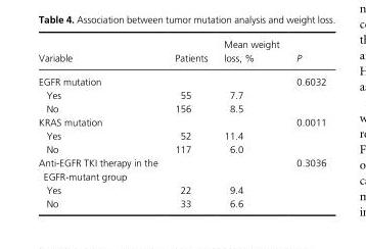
<table><thead><tr><td>Variable</td><td>Patients</td><td>Mean weight loss, %</td><td>P</td></tr></thead><tbody><tr><td>EGFR mutation</td><td></td><td></td><td>0.6032</td></tr><tr><td>Yes</td><td>55</td><td>7.7</td><td></td></tr><tr><td>No</td><td>156</td><td>8.5</td><td></td></tr><tr><td>KRAS mutation</td><td></td><td></td><td>0.0011</td></tr><tr><td>Yes</td><td>52</td><td>11.4</td><td></td></tr><tr><td>No</td><td>117</td><td>6.0</td><td></td></tr><tr><td>Anti- EGFR TKI therapy in the EGFR- mutant group</td><td></td><td></td><td>0.3036</td></tr><tr><td>Yes</td><td>22</td><td>9.4</td><td></td></tr><tr><td>No</td><td>33</td><td>6.6</td><td></td></tr></tbody></table>